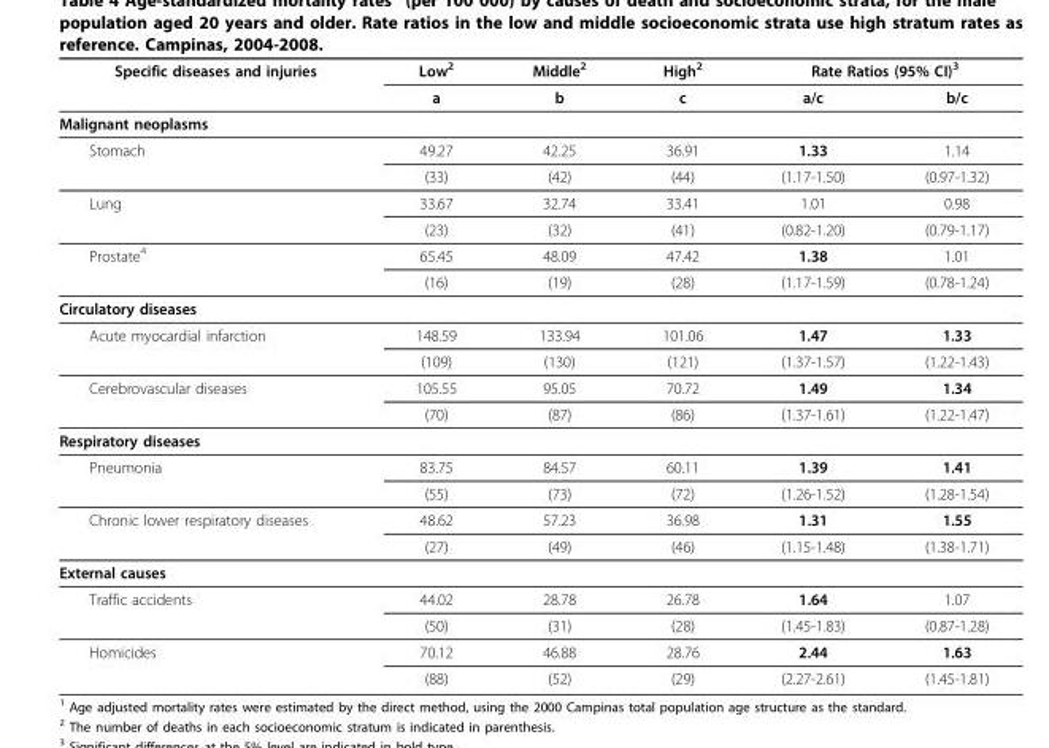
<table><thead><tr><td rowspan="2">Specific diseases and injuries</td><td rowspan="2">Low2 a</td><td rowspan="2">Middle2 b</td><td rowspan="2">High2 c</td><td colspan="2">Rate Ratios (95% CI)3</td></tr><tr><td>a/c</td><td>b/c</td></tr></thead><tbody><tr><td colspan="6">Malignant neoplasms</td></tr><tr><td rowspan="2">Stomach</td><td>49.27</td><td>42.25</td><td>36.91</td><td>1.33</td><td>1.14</td></tr><tr><td>(33)</td><td>(42)</td><td>(44)</td><td>(1.17-1.50)</td><td>(0.97-1.32)</td></tr><tr><td rowspan="2">Lung</td><td>33.67</td><td>32.74</td><td>33.41</td><td>1.01</td><td>0.98</td></tr><tr><td>(23)</td><td>(32)</td><td>(41)</td><td>(0.82-1.20)</td><td>(0.79-1.17)</td></tr><tr><td rowspan="2">Prostate<sup>4</sup></td><td>65.45</td><td>48.09</td><td>47.42</td><td>1.38</td><td>1.01</td></tr><tr><td>(16)</td><td>(19)</td><td>(28)</td><td>(1.17-1.59)</td><td>(0.78-1.24)</td></tr><tr><td colspan="6">Circulatory diseases</td></tr><tr><td rowspan="2">Acute myocardial infarction</td><td>148.59</td><td>133.94</td><td>101.06</td><td>1.47</td><td>1.33</td></tr><tr><td>(109)</td><td>(130)</td><td>(121)</td><td>(1.37-1.57)</td><td>(1.22-1.43)</td></tr><tr><td rowspan="2">Cerebrovascular diseases</td><td>105.55</td><td>95.05</td><td>70.72</td><td>1.49</td><td>1.34</td></tr><tr><td>(70)</td><td>(87)</td><td>(86)</td><td>(1.37-1.61)</td><td>(1.22-1.47)</td></tr><tr><td colspan="6">Respiratory diseases</td></tr><tr><td rowspan="2">Pneumonia</td><td>83.75</td><td>84.57</td><td>60.11</td><td>1.39</td><td>1.41</td></tr><tr><td>(55)</td><td>(73)</td><td>(72)</td><td>(1.26-1.52)</td><td>(1.28-1.54)</td></tr><tr><td rowspan="2">Chronic lower respiratory diseases</td><td>48.62</td><td>57.23</td><td>36.98</td><td>1.31</td><td>1.55</td></tr><tr><td>(27)</td><td>(49)</td><td>(46)</td><td>(1.15-1.48)</td><td>(1.38-1.71)</td></tr><tr><td colspan="6">External causes</td></tr><tr><td rowspan="2">Traffic accidents</td><td>44.02</td><td>28.78</td><td>26.78</td><td>1.64</td><td>1.07</td></tr><tr><td>(50)</td><td>(31)</td><td>(28)</td><td>(1.45-1.83)</td><td>(0.87-1.28)</td></tr><tr><td rowspan="2">Homicides</td><td>70.12</td><td>46.88</td><td>28.76</td><td>2.44</td><td>1.63</td></tr><tr><td>(88)</td><td>(52)</td><td>(29)</td><td>(2.27-2.61)</td><td>(1.45-1.81)</td></tr></tbody></table>